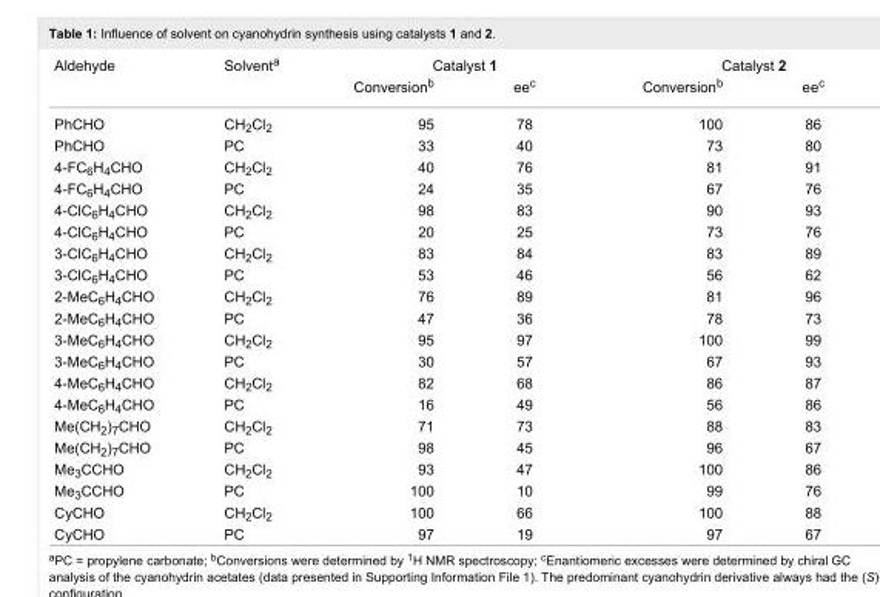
<table><tbody><tr><td rowspan="2">Aldehyde</td><td rowspan="2">Solvent<sup>a</sup></td><td colspan="2">Catalyst 1</td><td colspan="2">Catalyst 2</td></tr><tr><td>Conversion<sup>b</sup></td><td>ee<sup>c</sup></td><td>Conversion<sup>b</sup></td><td>ee<sup>c</sup></td></tr><tr><td>PhCHO</td><td>CH<sub>2</sub>Cl<sub>2</sub></td><td>95</td><td>78</td><td>100</td><td>86</td></tr><tr><td>PhCHO</td><td>PC</td><td>33</td><td>40</td><td>73</td><td>80</td></tr><tr><td>4-FC<sub>6</sub>H<sub>4</sub>CHO</td><td>CH<sub>2</sub>Cl<sub>2</sub></td><td>40</td><td>76</td><td>81</td><td>91</td></tr><tr><td>4-FC<sub>6</sub>H<sub>4</sub>CHO</td><td>PC</td><td>24</td><td>35</td><td>67</td><td>76</td></tr><tr><td>4-ClC<sub>6</sub>H<sub>4</sub>CHO</td><td>CH<sub>2</sub>Cl<sub>2</sub></td><td>98</td><td>83</td><td>90</td><td>93</td></tr><tr><td>4-ClC<sub>6</sub>H<sub>4</sub>CHO</td><td>PC</td><td>20</td><td>25</td><td>73</td><td>76</td></tr><tr><td>3-ClC<sub>6</sub>H<sub>4</sub>CHO</td><td>CH<sub>2</sub>Cl<sub>2</sub></td><td>83</td><td>84</td><td>83</td><td>89</td></tr><tr><td>3-ClC<sub>6</sub>H<sub>4</sub>CHO</td><td>PC</td><td>53</td><td>46</td><td>56</td><td>62</td></tr><tr><td>2-MeC<sub>6</sub>H<sub>4</sub>CHO</td><td>CH<sub>2</sub>Cl<sub>2</sub></td><td>76</td><td>89</td><td>81</td><td>96</td></tr><tr><td>2-MeC<sub>6</sub>H<sub>4</sub>CHO</td><td>PC</td><td>47</td><td>36</td><td>78</td><td>73</td></tr><tr><td>3-MeC<sub>6</sub>H<sub>4</sub>CHO</td><td>CH<sub>2</sub>Cl<sub>2</sub></td><td>95</td><td>97</td><td>100</td><td>99</td></tr><tr><td>3-MeC<sub>6</sub>H<sub>4</sub>CHO</td><td>PC</td><td>30</td><td>57</td><td>67</td><td>93</td></tr><tr><td>4-MeC<sub>6</sub>H<sub>4</sub>CHO</td><td>CH<sub>2</sub>Cl<sub>2</sub></td><td>82</td><td>68</td><td>86</td><td>87</td></tr><tr><td>4-MeC<sub>6</sub>H<sub>4</sub>CHO</td><td>PC</td><td>16</td><td>49</td><td>56</td><td>86</td></tr><tr><td>Me(CH<sub>2</sub>)<sub>7</sub>CHO</td><td>CH<sub>2</sub>Cl<sub>2</sub></td><td>71</td><td>73</td><td>88</td><td>83</td></tr><tr><td>Me(CH<sub>2</sub>)<sub>7</sub>CHO</td><td>PC</td><td>98</td><td>45</td><td>96</td><td>67</td></tr><tr><td>Me<sub>3</sub>CCHO</td><td>CH<sub>2</sub>Cl<sub>2</sub></td><td>93</td><td>47</td><td>100</td><td>86</td></tr><tr><td>Me<sub>3</sub>CCHO</td><td>PC</td><td>100</td><td>10</td><td>99</td><td>76</td></tr><tr><td>CyCHO</td><td>CH<sub>2</sub>Cl<sub>2</sub></td><td>100</td><td>66</td><td>100</td><td>88</td></tr><tr><td>CyCHO</td><td>PC</td><td>97</td><td>19</td><td>97</td><td>67</td></tr></tbody></table>